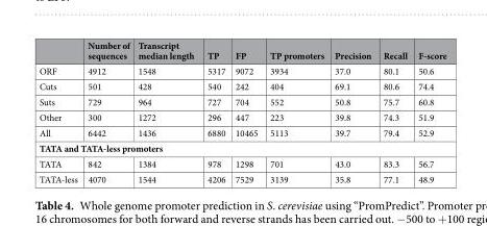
<table><thead><tr><td></td><td>Number of sequences</td><td>Transcript median length</td><td>TP</td><td>FP</td><td>TP promoters</td><td>Precision</td><td>Recall</td><td>F-score</td></tr></thead><tbody><tr><td>ORF</td><td>4912</td><td>1548</td><td>5317</td><td>9072</td><td>3934</td><td>37.0</td><td>80.1</td><td>50.6</td></tr><tr><td>Cuts</td><td>501</td><td>428</td><td>540</td><td>242</td><td>404</td><td>69.1</td><td>80.6</td><td>74.4</td></tr><tr><td>Suts</td><td>729</td><td>964</td><td>727</td><td>704</td><td>552</td><td>50.8</td><td>75.7</td><td>60.8</td></tr><tr><td>Other</td><td>300</td><td>1272</td><td>296</td><td>447</td><td>223</td><td>39.8</td><td>74.3</td><td>51.9</td></tr><tr><td>All</td><td>6442</td><td>1436</td><td>6880</td><td>10465</td><td>5113</td><td>39.7</td><td>79.4</td><td>52.9</td></tr><tr><td colspan="9">TATA and TATA-less promoters</td></tr><tr><td>TATA</td><td>842</td><td>1384</td><td>978</td><td>1298</td><td>701</td><td>43.0</td><td>83.3</td><td>56.7</td></tr><tr><td>TATA-less</td><td>4070</td><td>1544</td><td>4206</td><td>7529</td><td>3139</td><td>35.8</td><td>77.1</td><td>48.9</td></tr></tbody></table>